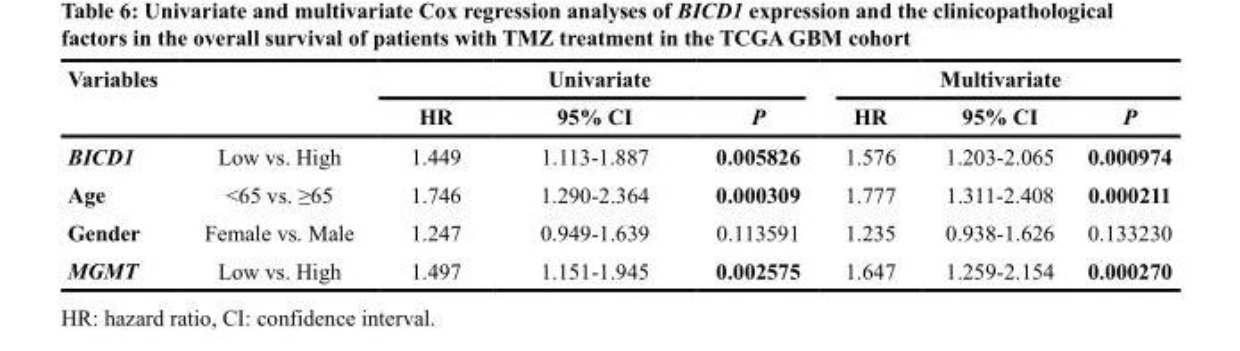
<table><thead><tr><td rowspan="2">Variables</td><td rowspan="2"></td><td colspan="3">Univariate</td><td colspan="3">Multivariate</td></tr><tr><td>HR</td><td>95% CI</td><td>P</td><td>HR</td><td>95% CI</td><td>P</td></tr></thead><tbody><tr><td>BICD1</td><td>Low vs. High</td><td>1.449</td><td>1.113-1.887</td><td>0.005826</td><td>1.576</td><td>1.203-2.065</td><td>0.000974</td></tr><tr><td>Age</td><td>&lt;65 vs. ≥65</td><td>1.746</td><td>1.290-2.364</td><td>0.000309</td><td>1.777</td><td>1.311-2.408</td><td>0.000211</td></tr><tr><td>Gender</td><td>Female vs. Male</td><td>1.247</td><td>0.949-1.639</td><td>0.113591</td><td>1.235</td><td>0.938-1.626</td><td>0.133230</td></tr><tr><td>MGMT</td><td>Low vs. High</td><td>1.497</td><td>1.151-1.945</td><td>0.002575</td><td>1.647</td><td>1.259-2.154</td><td>0.000270</td></tr></tbody></table>